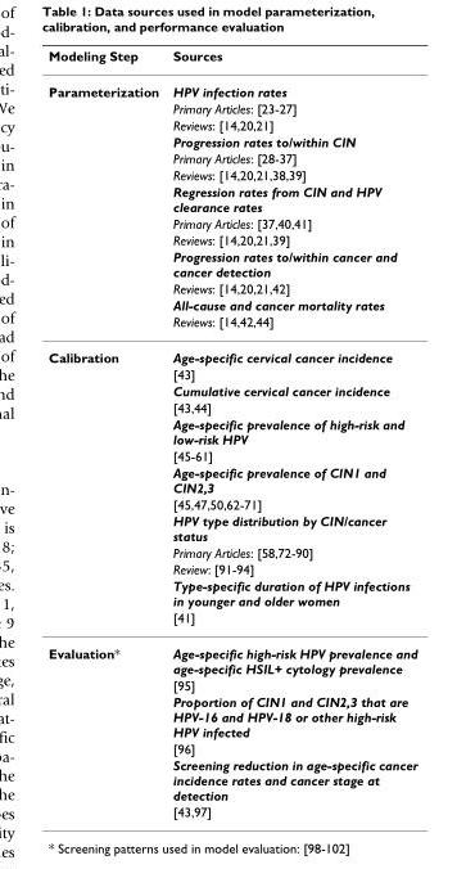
<table><thead><tr><td>Modeling Step</td><td>Sources</td></tr></thead><tbody><tr><td rowspan="13">Parameterization</td><td>HPV infection rates</td></tr><tr><td>Primary Articles: [23-27]</td></tr><tr><td>Reviews: [14,20,21]</td></tr><tr><td>Progression rates to/within CIN</td></tr><tr><td>Primary Articles: [28-37]</td></tr><tr><td>Reviews: [14,20,21,38,39]</td></tr><tr><td>Regression rates from CIN and HPV clearance rates</td></tr><tr><td>Primary Articles: [37,40,41]</td></tr><tr><td>Reviews: [14,20,21,39]</td></tr><tr><td>Progression rates to/within cancer and cancer detection</td></tr><tr><td>Reviews: [14,20,21,42]</td></tr><tr><td>All-cause and cancer mortality rates</td></tr><tr><td>Reviews: [14,42,44]</td></tr><tr><td rowspan="13">Calibration</td><td>Age-specific cervical cancer incidence</td></tr><tr><td>[43]</td></tr><tr><td>Cumulative cervical cancer incidence</td></tr><tr><td>[43,44]</td></tr><tr><td>Age-specific prevalence of high-risk and low-risk HPV</td></tr><tr><td>[45-61]</td></tr><tr><td>Age-specific prevalence of CIN1 and CIN2,3</td></tr><tr><td>[45,47,50,62-71]</td></tr><tr><td>HPV type distribution by CIN/cancer status</td></tr><tr><td>Primary Articles: [58,72-90]</td></tr><tr><td>Review: [91-94]</td></tr><tr><td>Type-specific duration of HPV infections in younger and older women</td></tr><tr><td>[41]</td></tr><tr><td rowspan="6">Evaluation*</td><td>Age-specific high-risk HPV prevalence and age-specific HSIL+ cytology prevalence</td></tr><tr><td>[95]</td></tr><tr><td>Proportion of CIN1 and CIN2,3 that are HPV-16 and HPV-18 or other high-risk HPV infected</td></tr><tr><td>[96]</td></tr><tr><td>Screening reduction in age-specific cancer incidence rates and cancer stage at detection</td></tr><tr><td>[43,97]</td></tr></tbody></table>